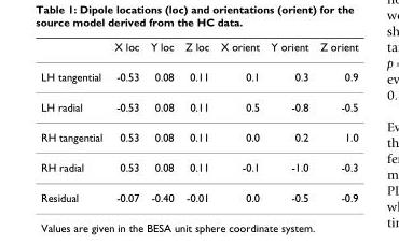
<table><thead><tr><td></td><td>X loc</td><td>Y loc</td><td>Z loc</td><td>X orient</td><td>Y orient</td><td>Z orient</td></tr></thead><tbody><tr><td>LH tangential</td><td>-0.53</td><td>0.08</td><td>0.11</td><td>0.1</td><td>0.3</td><td>0.9</td></tr><tr><td>LH radial</td><td>-0.53</td><td>0.08</td><td>0.11</td><td>0.5</td><td>-0.8</td><td>-0.5</td></tr><tr><td>RH tangential</td><td>0.53</td><td>0.08</td><td>0.11</td><td>0.0</td><td>0.2</td><td>1.0</td></tr><tr><td>RH radial</td><td>0.53</td><td>0.08</td><td>0.11</td><td>-0.1</td><td>-1.0</td><td>-0.3</td></tr><tr><td>Residual</td><td>-0.07</td><td>-0.40</td><td>-0.01</td><td>0.0</td><td>-0.5</td><td>-0.9</td></tr></tbody></table>